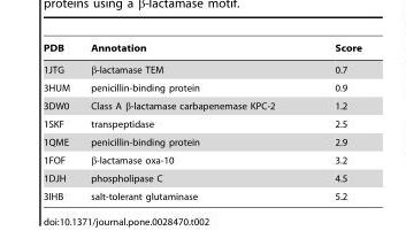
<table><thead><tr><td>PDB</td><td>Annotation</td><td>Score</td></tr></thead><tbody><tr><td>1JTG</td><td>β-lactamase TEM</td><td>0.7</td></tr><tr><td>3HUM</td><td>penicillin-binding protein</td><td>0.9</td></tr><tr><td>3DW0</td><td>Class A β-lactamase carbapenemase KPC-2</td><td>1.2</td></tr><tr><td>1SKF</td><td>transpeptidase</td><td>2.5</td></tr><tr><td>1QME</td><td>penicillin-binding protein</td><td>2.9</td></tr><tr><td>1FOF</td><td>β-lactamase oxa-10</td><td>3.2</td></tr><tr><td>1DJH</td><td>phospholipase C</td><td>4.5</td></tr><tr><td>3IHB</td><td>salt-tolerant glutaminase</td><td>5.2</td></tr></tbody></table>